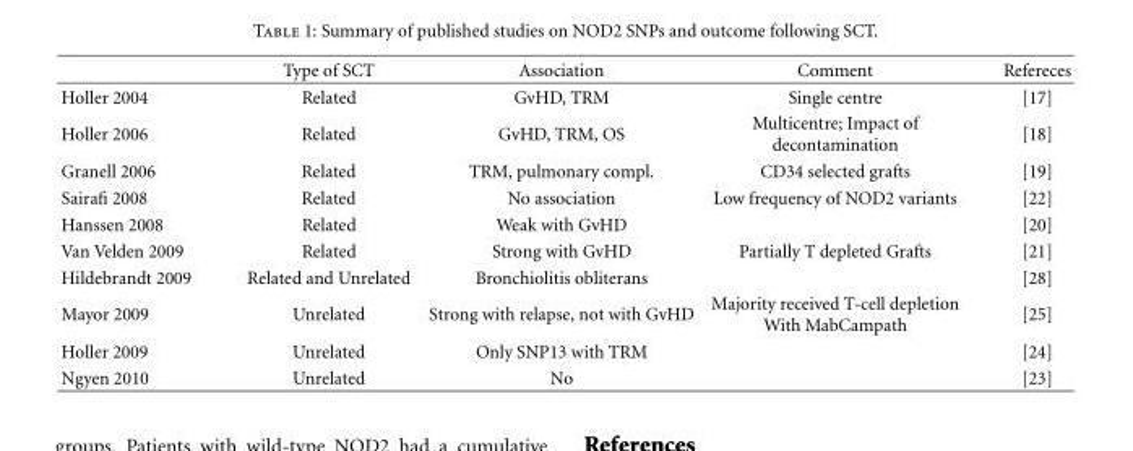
<table><thead><tr><td></td><td>Type of SCT</td><td>Association</td><td>Comment</td><td>Refereces</td></tr></thead><tbody><tr><td>Holler 2004</td><td>Related</td><td>GvHD, TRM</td><td>Single centre</td><td>[17]</td></tr><tr><td>Holler 2006</td><td>Related</td><td>GvHD, TRM, OS</td><td>Multicentre; Impact of decontamination</td><td>[18]</td></tr><tr><td>Granell 2006</td><td>Related</td><td>TRM, pulmonary compl.</td><td>CD34 selected grafts</td><td>[19]</td></tr><tr><td>Sairafi 2008</td><td>Related</td><td>No association</td><td>Low frequency of NOD2 variants</td><td>[22]</td></tr><tr><td>Hanssen 2008</td><td>Related</td><td>Weak with GvHD</td><td></td><td>[20]</td></tr><tr><td>Van Velden 2009</td><td>Related</td><td>Strong with GvHD</td><td>Partially T depleted Grafts</td><td>[21]</td></tr><tr><td>Hildebrandt 2009</td><td>Related and Unrelated</td><td>Bronchiolitis obliterans</td><td></td><td>[28]</td></tr><tr><td>Mayor 2009</td><td>Unrelated</td><td>Strong with relapse, not with GvHD</td><td>Majority received T-cell depletion With MabCampath</td><td>[25]</td></tr><tr><td>Holler 2009</td><td>Unrelated</td><td>Only SNP13 with TRM</td><td></td><td>[24]</td></tr><tr><td>Ngyen 2010</td><td>Unrelated</td><td>No</td><td></td><td>[23]</td></tr></tbody></table>